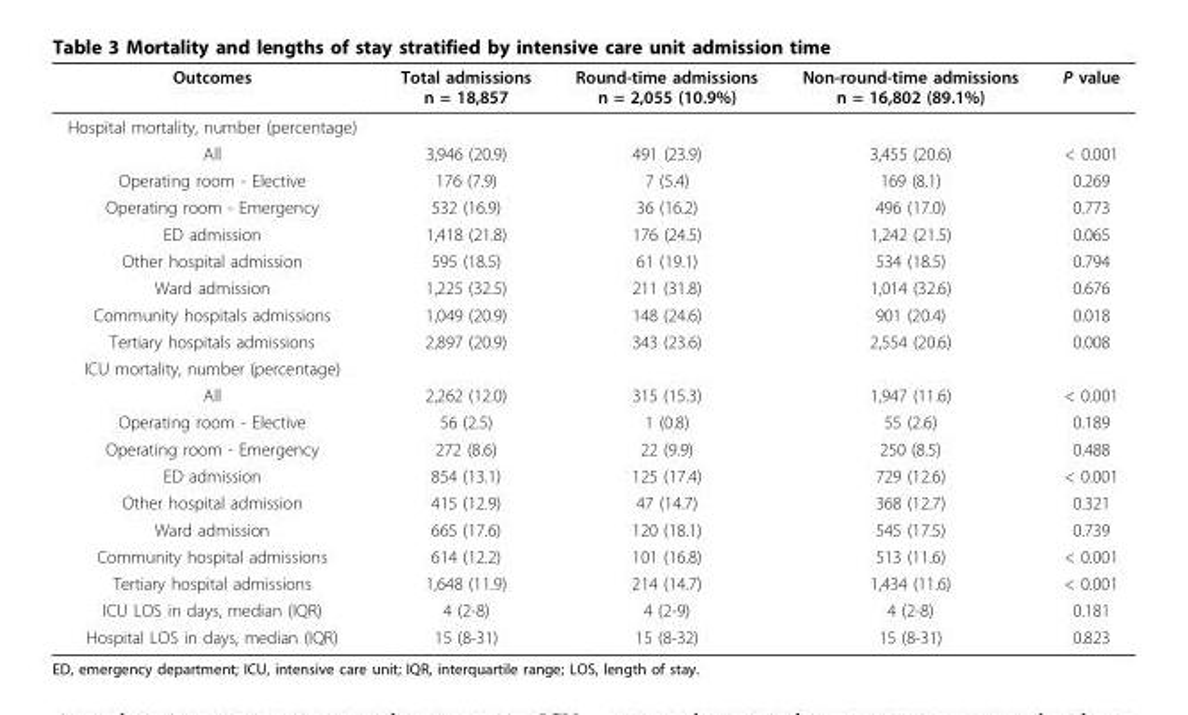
<table><thead><tr><td>Outcomes</td><td>Total admissions n = 18,857</td><td>Round-time admissions n = 2,055 (10.9%)</td><td>Non-round-time admissions n = 16,802 (89.1%)</td><td>P value</td></tr></thead><tbody><tr><td colspan="5">Hospital mortality, number (percentage)</td></tr><tr><td>All</td><td>3,946 (20.9)</td><td>491 (23.9)</td><td>3,455 (20.6)</td><td>&lt; 0.001</td></tr><tr><td>Operating room - Elective</td><td>176 (7.9)</td><td>7 (5.4)</td><td>169 (8.1)</td><td>0.269</td></tr><tr><td>Operating room - Emergency</td><td>532 (16.9)</td><td>36 (16.2)</td><td>496 (17.0)</td><td>0.773</td></tr><tr><td>ED admission</td><td>1,418 (21.8)</td><td>176 (24.5)</td><td>1,242 (21.5)</td><td>0.065</td></tr><tr><td>Other hospital admission</td><td>595 (18.5)</td><td>61 (19.1)</td><td>534 (18.5)</td><td>0.794</td></tr><tr><td>Ward admission</td><td>1,225 (32.5)</td><td>211 (31.8)</td><td>1,014 (32.6)</td><td>0.676</td></tr><tr><td>Community hospitals admissions</td><td>1,049 (20.9)</td><td>148 (24.6)</td><td>901 (20.4)</td><td>0.018</td></tr><tr><td>Tertiary hospitals admissions</td><td>2,897 (20.9)</td><td>343 (23.6)</td><td>2,554 (20.6)</td><td>0.008</td></tr><tr><td colspan="5">ICU mortality, number (percentage)</td></tr><tr><td>All</td><td>2,262 (12.0)</td><td>315 (15.3)</td><td>1,947 (11.6)</td><td>&lt; 0.001</td></tr><tr><td>Operating room - Elective</td><td>56 (2.5)</td><td>1 (0.8)</td><td>55 (2.6)</td><td>0.189</td></tr><tr><td>Operating room - Emergency</td><td>272 (8.6)</td><td>22 (9.9)</td><td>250 (8.5)</td><td>0.488</td></tr><tr><td>ED admission</td><td>854 (13.1)</td><td>125 (17.4)</td><td>729 (12.6)</td><td>&lt; 0.001</td></tr><tr><td>Other hospital admission</td><td>415 (12.9)</td><td>47 (14.7)</td><td>368 (12.7)</td><td>0.321</td></tr><tr><td>Ward admission</td><td>665 (17.6)</td><td>120 (18.1)</td><td>545 (17.5)</td><td>0.739</td></tr><tr><td>Community hospital admissions</td><td>614 (12.2)</td><td>101 (16.8)</td><td>513 (11.6)</td><td>&lt; 0.001</td></tr><tr><td>Tertiary hospital admissions</td><td>1,648 (11.9)</td><td>214 (14.7)</td><td>1,434 (11.6)</td><td>&lt; 0.001</td></tr><tr><td>ICU LOS in days, median (IQR)</td><td>4 (2-8)</td><td>4 (2-9)</td><td>4 (2-8)</td><td>0.181</td></tr><tr><td>Hospital LOS in days, median (IQR)</td><td>15 (8-31)</td><td>15 (8-32)</td><td>15 (8-31)</td><td>0.823</td></tr></tbody></table>